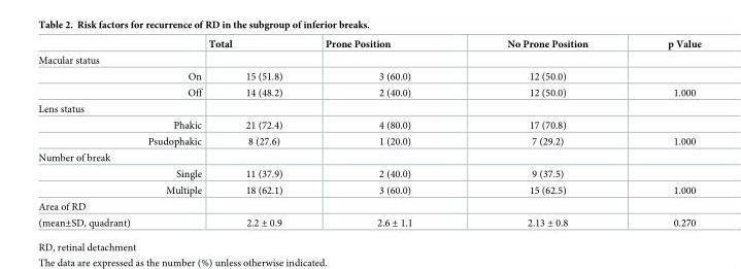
<table><thead><tr><td></td><td>Total</td><td>Prone Position</td><td>No Prone Position</td><td>p Value</td></tr></thead><tbody><tr><td colspan="5">Macular status</td></tr><tr><td>On</td><td>15 (51.8)</td><td>3 (60.0)</td><td>12 (50.0)</td><td></td></tr><tr><td>Off</td><td>14 (48.2)</td><td>2 (40.0)</td><td>12 (50.0)</td><td>1.000</td></tr><tr><td colspan="5">Lens status</td></tr><tr><td>Phakic</td><td>21 (72.4)</td><td>4 (80.0)</td><td>17 (70.8)</td><td></td></tr><tr><td>Psudophakic</td><td>8 (27.6)</td><td>1 (20.0)</td><td>7 (29.2)</td><td>1.000</td></tr><tr><td colspan="5">Number of break</td></tr><tr><td>Single</td><td>11 (37.9)</td><td>2 (40.0)</td><td>9 (37.5)</td><td></td></tr><tr><td>Multiple</td><td>18 (62.1)</td><td>3 (60.0)</td><td>15 (62.5)</td><td>1.000</td></tr><tr><td colspan="5">Area of RD</td></tr><tr><td>(mean±SD, quadrant)</td><td>2.2 ± 0.9</td><td>2.6 ± 1.1</td><td>2.13 ± 0.8</td><td>0.270</td></tr></tbody></table>